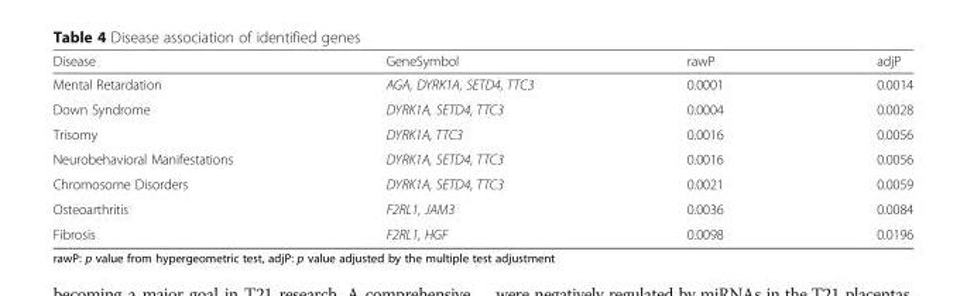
<table><thead><tr><td>Disease</td><td>GeneSymbol</td><td>rawP</td><td>adjP</td></tr></thead><tbody><tr><td>Mental Retardation</td><td>AGA, DYRK1A, SETD4, TTC3</td><td>0.0001</td><td>0.0014</td></tr><tr><td>Down Syndrome</td><td>DYRK1A, SETD4, TTC3</td><td>0.0004</td><td>0.0028</td></tr><tr><td>Trisomy</td><td>DYRK1A, TTC3</td><td>0.0016</td><td>0.0056</td></tr><tr><td>Neurobehavioral Manifestations</td><td>DYRK1A, SETD4, TTC3</td><td>0.0016</td><td>0.0056</td></tr><tr><td>Chromosome Disorders</td><td>DYRK1A, SETD4, TTC3</td><td>0.0021</td><td>0.0059</td></tr><tr><td>Osteoarthritis</td><td>F2RL1, JAM3</td><td>0.0036</td><td>0.0084</td></tr><tr><td>Fibrosis</td><td>F2RL1, HGF</td><td>0.0098</td><td>0.0196</td></tr></tbody></table>